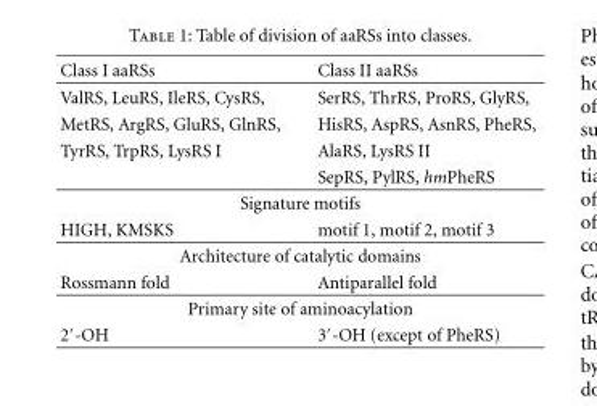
<table><thead><tr><td>Class I aaRSs</td><td>Class II aaRSs</td></tr></thead><tbody><tr><td>ValRS, LeuRS, IleRS, CysRS,</td><td>SerRS, ThrRS, ProRS, GlyRS,</td></tr><tr><td>MetRS, ArgRS, GluRS, GlnRS,</td><td>HisRS, AspRS, AsnRS, PheRS,</td></tr><tr><td rowspan="2">TyrRS, TrpRS, LysRS I</td><td>AlaRS, LysRS II</td></tr><tr><td>SepRS, PylRS, hmPheRS</td></tr><tr><td colspan="2">Signature motifs</td></tr><tr><td>HIGH, KMSKS</td><td>motif 1, motif 2, motif 3</td></tr><tr><td colspan="2">Architecture of catalytic domains</td></tr><tr><td>Rossmann fold</td><td>Antiparallel fold</td></tr><tr><td colspan="2">Primary site of aminoacylation</td></tr><tr><td>2′-OH</td><td>3′-OH (except of PheRS)</td></tr></tbody></table>